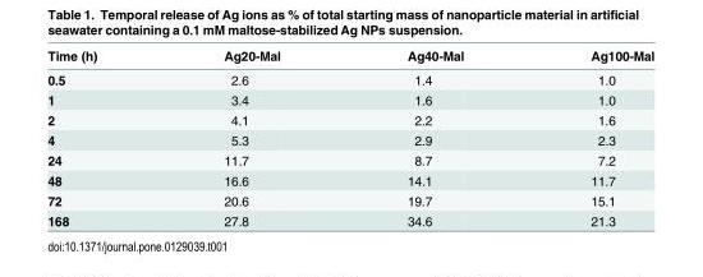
<table><thead><tr><td>Time (h)</td><td>Ag20-Mal</td><td>Ag40-Mal</td><td>Ag100-Mal</td></tr></thead><tbody><tr><td>0.5</td><td>2.6</td><td>1.4</td><td>1.0</td></tr><tr><td>1</td><td>3.4</td><td>1.6</td><td>1.0</td></tr><tr><td>2</td><td>4.1</td><td>2.2</td><td>1.6</td></tr><tr><td>4</td><td>5.3</td><td>2.9</td><td>2.3</td></tr><tr><td>24</td><td>11.7</td><td>8.7</td><td>7.2</td></tr><tr><td>48</td><td>16.6</td><td>14.1</td><td>11.7</td></tr><tr><td>72</td><td>20.6</td><td>19.7</td><td>15.1</td></tr><tr><td>168</td><td>27.8</td><td>34.6</td><td>21.3</td></tr></tbody></table>